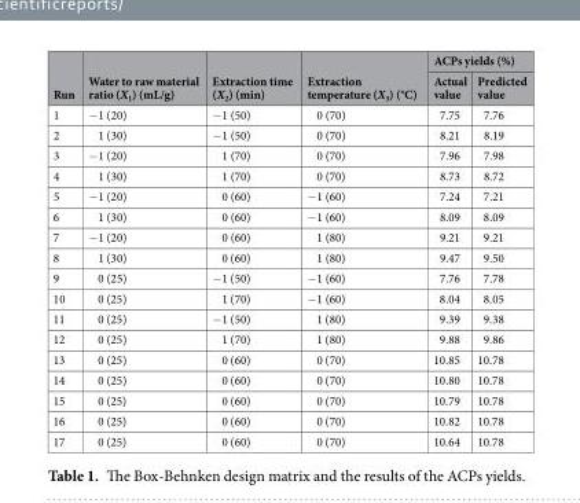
<table><thead><tr><td rowspan="2">Run</td><td rowspan="2">Water to raw material ratio (X<sub>1</sub>) (mL/g)</td><td rowspan="2">Extraction time (X<sub>2</sub>) (min)</td><td rowspan="2">Extraction temperature (X<sub>3</sub>) (°C)</td><td colspan="2">ACPs yields (%)</td></tr><tr><td>Actual value</td><td>Predicted value</td></tr></thead><tbody><tr><td>1</td><td>−1 (20)</td><td>−1 (50)</td><td>0 (70)</td><td>7.75</td><td>7.76</td></tr><tr><td>2</td><td>1 (30)</td><td>−1 (50)</td><td>0 (70)</td><td>8.21</td><td>8.19</td></tr><tr><td>3</td><td>−1 (20)</td><td>1 (70)</td><td>0 (70)</td><td>7.96</td><td>7.98</td></tr><tr><td>4</td><td>1 (30)</td><td>1 (70)</td><td>0 (70)</td><td>8.73</td><td>8.72</td></tr><tr><td>5</td><td>−1 (20)</td><td>0 (60)</td><td>−1 (60)</td><td>7.24</td><td>7.21</td></tr><tr><td>6</td><td>1 (30)</td><td>0 (60)</td><td>−1 (60)</td><td>8.09</td><td>8.09</td></tr><tr><td>7</td><td>−1 (20)</td><td>0 (60)</td><td>1 (80)</td><td>9.21</td><td>9.21</td></tr><tr><td>8</td><td>1 (30)</td><td>0 (60)</td><td>1 (80)</td><td>9.47</td><td>9.50</td></tr><tr><td>9</td><td>0 (25)</td><td>−1 (50)</td><td>−1 (60)</td><td>7.76</td><td>7.78</td></tr><tr><td>10</td><td>0 (25)</td><td>1 (70)</td><td>−1 (60)</td><td>8.04</td><td>8.05</td></tr><tr><td>11</td><td>0 (25)</td><td>−1 (50)</td><td>1 (80)</td><td>9.39</td><td>9.38</td></tr><tr><td>12</td><td>0 (25)</td><td>1 (70)</td><td>1 (80)</td><td>9.88</td><td>9.86</td></tr><tr><td>13</td><td>0 (25)</td><td>0 (60)</td><td>0 (70)</td><td>10.85</td><td>10.78</td></tr><tr><td>14</td><td>0 (25)</td><td>0 (60)</td><td>0 (70)</td><td>10.80</td><td>10.78</td></tr><tr><td>15</td><td>0 (25)</td><td>0 (60)</td><td>0 (70)</td><td>10.79</td><td>10.78</td></tr><tr><td>16</td><td>0 (25)</td><td>0 (60)</td><td>0 (70)</td><td>10.82</td><td>10.78</td></tr><tr><td>17</td><td>0 (25)</td><td>0 (60)</td><td>0 (70)</td><td>10.64</td><td>10.78</td></tr></tbody></table>